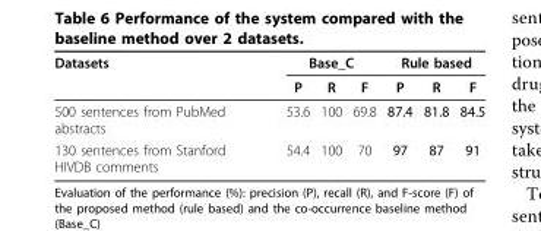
<table><thead><tr><td rowspan="2">Datasets</td><td colspan="3">Base_C</td><td colspan="3">Rule based</td></tr><tr><td>P</td><td>R</td><td>F</td><td>P</td><td>R</td><td>F</td></tr></thead><tbody><tr><td>500 sentences from PubMed abstracts</td><td>53.6</td><td>100</td><td>69.8</td><td>87.4</td><td>81.8</td><td>84.5</td></tr><tr><td>130 sentences from Stanford HIVDB comments</td><td>54.4</td><td>100</td><td>70</td><td>97</td><td>87</td><td>91</td></tr></tbody></table>